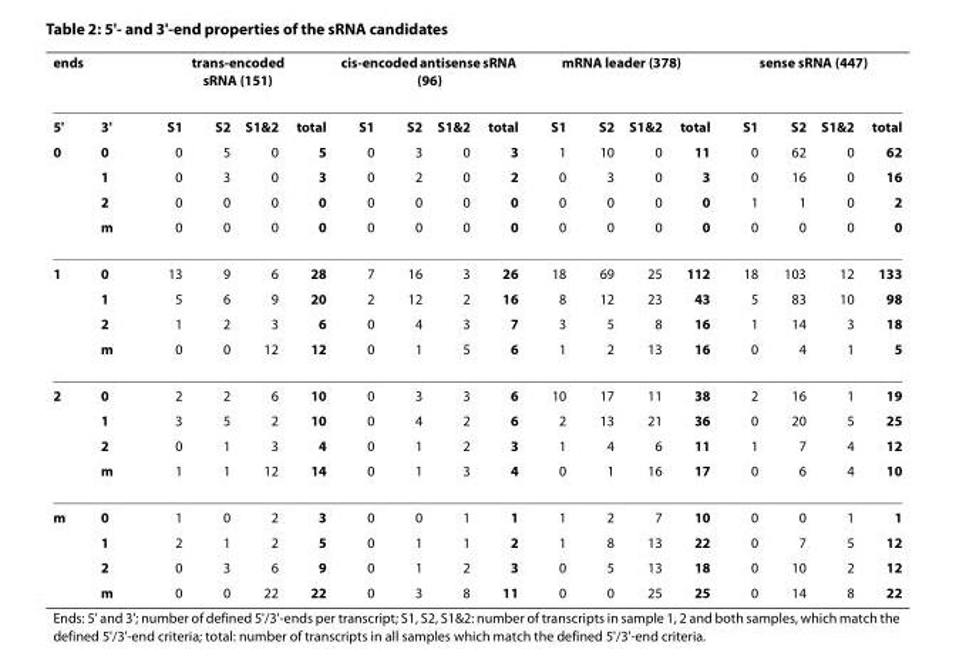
<table><thead><tr><td rowspan="2">ends 5&#x27;</td><td rowspan="2">3&#x27;</td><td colspan="4">trans-encoded sRNA (151)</td><td colspan="4">cis-encoded antisense sRNA (96)</td><td colspan="4">mRNA leader (378)</td><td colspan="4">sense sRNA (447)</td></tr><tr><td>S1</td><td>S2</td><td>S1&amp;2</td><td>total</td><td>S1</td><td>S2</td><td>S1&amp;2</td><td>total</td><td>S1</td><td>S2</td><td>S1&amp;2</td><td>total</td><td>S1</td><td>S2</td><td>S1&amp;2</td><td>total</td></tr></thead><tbody><tr><td rowspan="4">0</td><td>0</td><td>0</td><td>5</td><td>0</td><td>5</td><td>0</td><td>3</td><td>0</td><td>3</td><td>1</td><td>10</td><td>0</td><td>11</td><td>0</td><td>62</td><td>0</td><td>62</td></tr><tr><td>1</td><td>0</td><td>3</td><td>0</td><td>3</td><td>0</td><td>2</td><td>0</td><td>2</td><td>0</td><td>3</td><td>0</td><td>3</td><td>0</td><td>16</td><td>0</td><td>16</td></tr><tr><td>2</td><td>0</td><td>0</td><td>0</td><td>0</td><td>0</td><td>0</td><td>0</td><td>0</td><td>0</td><td>0</td><td>0</td><td>0</td><td>1</td><td>1</td><td>0</td><td>2</td></tr><tr><td>m</td><td>0</td><td>0</td><td>0</td><td>0</td><td>0</td><td>0</td><td>0</td><td>0</td><td>0</td><td>0</td><td>0</td><td>0</td><td>0</td><td>0</td><td>0</td><td>0</td></tr><tr><td rowspan="4">1</td><td>0</td><td>13</td><td>9</td><td>6</td><td>28</td><td>7</td><td>16</td><td>3</td><td>26</td><td>18</td><td>69</td><td>25</td><td>112</td><td>18</td><td>103</td><td>12</td><td>133</td></tr><tr><td>1</td><td>5</td><td>6</td><td>9</td><td>20</td><td>2</td><td>12</td><td>2</td><td>16</td><td>8</td><td>12</td><td>23</td><td>43</td><td>5</td><td>83</td><td>10</td><td>98</td></tr><tr><td>2</td><td>1</td><td>2</td><td>3</td><td>6</td><td>0</td><td>4</td><td>3</td><td>7</td><td>3</td><td>5</td><td>8</td><td>16</td><td>1</td><td>14</td><td>3</td><td>18</td></tr><tr><td>m</td><td>0</td><td>0</td><td>12</td><td>12</td><td>0</td><td>1</td><td>5</td><td>6</td><td>1</td><td>2</td><td>13</td><td>16</td><td>0</td><td>4</td><td>1</td><td>5</td></tr><tr><td rowspan="4">2</td><td>0</td><td>2</td><td>2</td><td>6</td><td>10</td><td>0</td><td>3</td><td>3</td><td>6</td><td>10</td><td>17</td><td>11</td><td>38</td><td>2</td><td>16</td><td>1</td><td>19</td></tr><tr><td>1</td><td>3</td><td>5</td><td>2</td><td>10</td><td>0</td><td>4</td><td>2</td><td>6</td><td>2</td><td>13</td><td>21</td><td>36</td><td>0</td><td>20</td><td>5</td><td>25</td></tr><tr><td>2</td><td>0</td><td>1</td><td>3</td><td>4</td><td>0</td><td>1</td><td>2</td><td>3</td><td>1</td><td>4</td><td>6</td><td>11</td><td>1</td><td>7</td><td>4</td><td>12</td></tr><tr><td>m</td><td>1</td><td>1</td><td>12</td><td>14</td><td>0</td><td>1</td><td>3</td><td>4</td><td>0</td><td>1</td><td>16</td><td>17</td><td>0</td><td>6</td><td>4</td><td>10</td></tr><tr><td rowspan="4">m</td><td>0</td><td>1</td><td>0</td><td>2</td><td>3</td><td>0</td><td>0</td><td>1</td><td>1</td><td>1</td><td>2</td><td>7</td><td>10</td><td>0</td><td>0</td><td>1</td><td>1</td></tr><tr><td>1</td><td>2</td><td>1</td><td>2</td><td>5</td><td>0</td><td>1</td><td>1</td><td>2</td><td>1</td><td>8</td><td>13</td><td>22</td><td>0</td><td>7</td><td>5</td><td>12</td></tr><tr><td>2</td><td>0</td><td>3</td><td>6</td><td>9</td><td>0</td><td>1</td><td>2</td><td>3</td><td>0</td><td>5</td><td>13</td><td>18</td><td>0</td><td>10</td><td>2</td><td>12</td></tr><tr><td>m</td><td>0</td><td>0</td><td>22</td><td>22</td><td>0</td><td>3</td><td>8</td><td>11</td><td>0</td><td>0</td><td>25</td><td>25</td><td>0</td><td>14</td><td>8</td><td>22</td></tr></tbody></table>